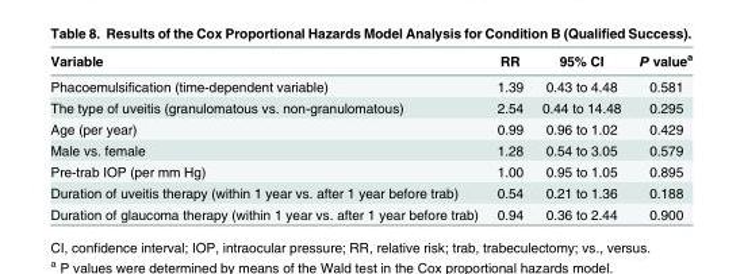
<table><thead><tr><td>Variable</td><td>RR</td><td>95% CI</td><td>P value<sup>a</sup></td></tr></thead><tbody><tr><td>Phacoemulsification (time-dependent variable)</td><td>1.39</td><td>0.43 to 4.48</td><td>0.581</td></tr><tr><td>The type of uveitis (granulomatous vs. non-granulomatous)</td><td>2.54</td><td>0.44 to 14.48</td><td>0.295</td></tr><tr><td>Age (per year)</td><td>0.99</td><td>0.96 to 1.02</td><td>0.429</td></tr><tr><td>Male vs. female</td><td>1.28</td><td>0.54 to 3.05</td><td>0.579</td></tr><tr><td>Pre-trab IOP (per mm Hg)</td><td>1.00</td><td>0.95 to 1.05</td><td>0.895</td></tr><tr><td>Duration of uveitis therapy (within 1 year vs. after 1 year before trab)</td><td>0.54</td><td>0.21 to 1.36</td><td>0.188</td></tr><tr><td>Duration of glaucoma therapy (within 1 year vs. after 1 year before trab)</td><td>0.94</td><td>0.36 to 2.44</td><td>0.900</td></tr></tbody></table>